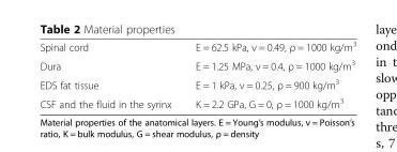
<table><tbody><tr><td>Spinal cord</td><td>E = 62.5 kPa, ν = 0.49, ρ = 1000 kg/m<sup>3</sup></td></tr><tr><td>Dura</td><td>E = 1.25 MPa, ν = 0.4, ρ = 1000 kg/m<sup>3</sup></td></tr><tr><td>EDS fat tissue</td><td>E = 1 kPa, ν = 0.25, ρ = 900 kg/m<sup>3</sup></td></tr><tr><td>CSF and the fluid in the syrinx</td><td>K = 2.2 GPa, G = 0, ρ = 1000 kg/m<sup>3</sup></td></tr></tbody></table>